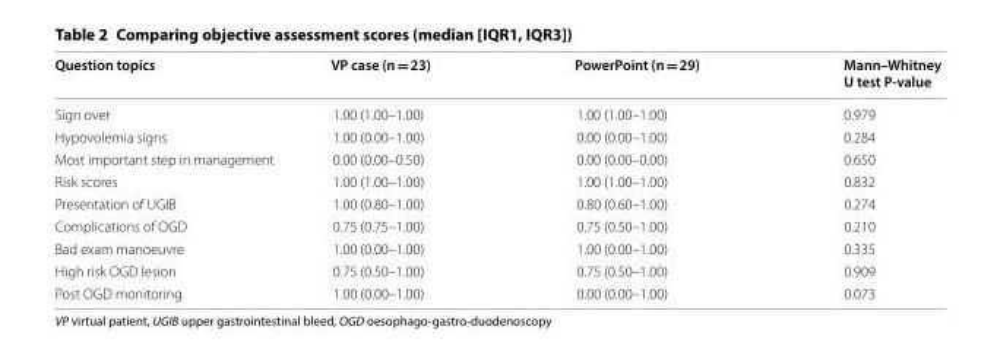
<table><thead><tr><td>Question topics</td><td>VP case (n = 23)</td><td>PowerPoint (n = 29)</td><td>Mann–Whitney U test P-value</td></tr></thead><tbody><tr><td>Sign over</td><td>1.00 (1.00–1.00)</td><td>1.00 (1.00–1.00)</td><td>0.979</td></tr><tr><td>Hypovolemia signs</td><td>1.00 (0.00–1.00)</td><td>0.00 (0.00–1.00)</td><td>0.284</td></tr><tr><td>Most important step in management</td><td>0.00 (0.00–0.50)</td><td>0.00 (0.00–0.00)</td><td>0.650</td></tr><tr><td>Risk scores</td><td>1.00 (1.00–1.00)</td><td>1.00 (1.00–1.00)</td><td>0.832</td></tr><tr><td>Presentation of UGIB</td><td>1.00 (0.80–1.00)</td><td>0.80 (0.60–1.00)</td><td>0.274</td></tr><tr><td>Complications of OGD</td><td>0.75 (0.75–1.00)</td><td>0.75 (0.50–1.00)</td><td>0.210</td></tr><tr><td>Bad exam manoeuvre</td><td>1.00 (0.00–1.00)</td><td>1.00 (0.00–1.00)</td><td>0.335</td></tr><tr><td>High risk OGD lesion</td><td>0.75 (0.50–1.00)</td><td>0.75 (0.50–1.00)</td><td>0.909</td></tr><tr><td>Post OGD monitoring</td><td>1.00 (0.00–1.00)</td><td>0.00 (0.00–1.00)</td><td>0.073</td></tr></tbody></table>